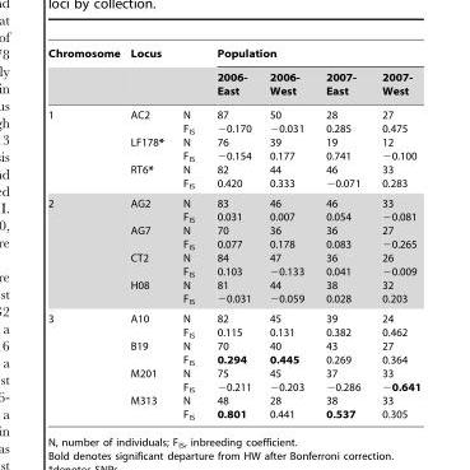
<table><thead><tr><td rowspan="2">Chromosome</td><td rowspan="2">Locus</td><td rowspan="2"></td><td colspan="4">Population</td></tr><tr><td>2006- East</td><td>2006- West</td><td>2007- East</td><td>2007- West</td></tr></thead><tbody><tr><td>1</td><td>AC2 LF178* RT6*</td><td>N F<sub>IS</sub> N F<sub>IS</sub> N F<sub>IS</sub></td><td>87 −0.170 76 −0.154 82 0.420</td><td>50 −0.031 39 0.177 44 0.333</td><td>28 0.285 19 0.741 46 −0.071</td><td>27 0.475 12 −0.100 33 0.283</td></tr><tr><td>2</td><td>AG2 AG7 CT2 H08</td><td>N F<sub>IS</sub> N F<sub>IS</sub> N F<sub>IS</sub> N F<sub>IS</sub></td><td>83 0.031 70 0.077 84 0.103 81 −0.031</td><td>46 0.007 36 0.178 47 −0.133 44 −0.059</td><td>46 0.054 36 0.083 36 0.041 38 0.028</td><td>33 −0.081 27 −0.265 26 −0.009 32 0.203</td></tr><tr><td>3</td><td>A10 B19 M201 M313</td><td>N F<sub>IS</sub> N F<sub>IS</sub> N F<sub>IS</sub> N F<sub>IS</sub></td><td>82 0.115 70 0.294 75 −0.211 48 0.801</td><td>45 0.131 40 0.445 45 −0.203 28 0.441</td><td>39 0.382 43 0.269 37 −0.286 38 0.537</td><td>24 0.462 27 0.364 33 −0.641 33 0.305</td></tr></tbody></table>